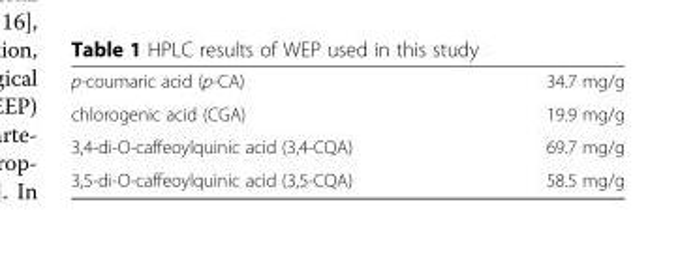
<table><tbody><tr><td>p-coumaric acid (p-CA)</td><td>34.7 mg/g</td></tr><tr><td>chlorogenic acid (CGA)</td><td>19.9 mg/g</td></tr><tr><td>3,4-di-O-caffeoylquinic acid (3,4-CQA)</td><td>69.7 mg/g</td></tr><tr><td>3,5-di-O-caffeoylquinic acid (3,5-CQA)</td><td>58.5 mg/g</td></tr></tbody></table>